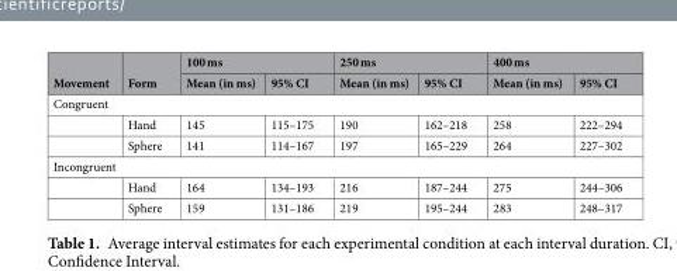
<table><thead><tr><td rowspan="2">Movement</td><td rowspan="2">Form</td><td colspan="2">100 ms</td><td colspan="2">250 ms</td><td colspan="2">400 ms</td></tr><tr><td>Mean (in ms)</td><td>95% CI</td><td>Mean (in ms)</td><td>95% CI</td><td>Mean (in ms)</td><td>95% CI</td></tr></thead><tbody><tr><td colspan="8">Congruent</td></tr><tr><td></td><td>Hand</td><td>145</td><td>115–175</td><td>190</td><td>162–218</td><td>258</td><td>222–294</td></tr><tr><td></td><td>Sphere</td><td>141</td><td>114–167</td><td>197</td><td>165–229</td><td>264</td><td>227–302</td></tr><tr><td colspan="8">Incongruent</td></tr><tr><td></td><td>Hand</td><td>164</td><td>134–193</td><td>216</td><td>187–244</td><td>275</td><td>244–306</td></tr><tr><td></td><td>Sphere</td><td>159</td><td>131–186</td><td>219</td><td>195–244</td><td>283</td><td>248–317</td></tr></tbody></table>